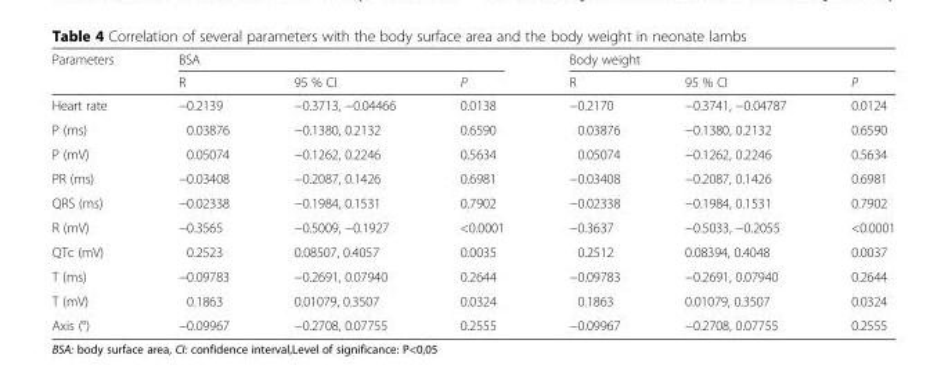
<table><thead><tr><td rowspan="2">Parameters</td><td colspan="3">BSA</td><td colspan="3">Body weight</td></tr><tr><td>R</td><td>95 % CI</td><td>P</td><td>R</td><td>95 % CI</td><td>P</td></tr></thead><tbody><tr><td>Heart rate</td><td>−0.2139</td><td>−0.3713, −0.04466</td><td>0.0138</td><td>−0.2170</td><td>−0.3741, −0.04787</td><td>0.0124</td></tr><tr><td>P (ms)</td><td>0.03876</td><td>−0.1380, 0.2132</td><td>0.6590</td><td>0.03876</td><td>−0.1380, 0.2132</td><td>0.6590</td></tr><tr><td>P (mV)</td><td>0.05074</td><td>−0.1262, 0.2246</td><td>0.5634</td><td>0.05074</td><td>−0.1262, 0.2246</td><td>0.5634</td></tr><tr><td>PR (ms)</td><td>−0.03408</td><td>−0.2087, 0.1426</td><td>0.6981</td><td>−0.03408</td><td>−0.2087, 0.1426</td><td>0.6981</td></tr><tr><td>QRS (ms)</td><td>−0.02338</td><td>−0.1984, 0.1531</td><td>0.7902</td><td>−0.02338</td><td>−0.1984, 0.1531</td><td>0.7902</td></tr><tr><td>R (mV)</td><td>−0.3565</td><td>−0.5009, −0.1927</td><td>&lt;0.0001</td><td>−0.3637</td><td>−0.5033, −0.2055</td><td>&lt;0.0001</td></tr><tr><td>QTc (mV)</td><td>0.2523</td><td>0.08507, 0.4057</td><td>0.0035</td><td>0.2512</td><td>0.08394, 0.4048</td><td>0.0037</td></tr><tr><td>T (ms)</td><td>−0.09783</td><td>−0.2691, 0.07940</td><td>0.2644</td><td>−0.09783</td><td>−0.2691, 0.07940</td><td>0.2644</td></tr><tr><td>T (mV)</td><td>0.1863</td><td>0.01079, 0.3507</td><td>0.0324</td><td>0.1863</td><td>0.01079, 0.3507</td><td>0.0324</td></tr><tr><td>Axis (°)</td><td>−0.09967</td><td>−0.2708, 0.07755</td><td>0.2555</td><td>−0.09967</td><td>−0.2708, 0.07755</td><td>0.2555</td></tr></tbody></table>